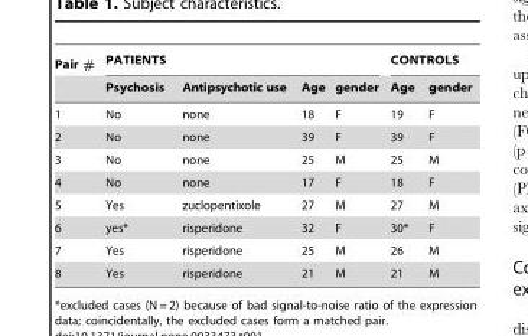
<table><thead><tr><td rowspan="2">Pair #</td><td colspan="4">PATIENTS</td><td colspan="2">CONTROLS</td></tr><tr><td>Psychosis</td><td>Antipsychotic use</td><td>Age</td><td>gender</td><td>Age</td><td>gender</td></tr></thead><tbody><tr><td>1</td><td>No</td><td>none</td><td>18</td><td>F</td><td>19</td><td>F</td></tr><tr><td>2</td><td>No</td><td>none</td><td>39</td><td>F</td><td>39</td><td>F</td></tr><tr><td>3</td><td>No</td><td>none</td><td>25</td><td>M</td><td>25</td><td>M</td></tr><tr><td>4</td><td>No</td><td>none</td><td>17</td><td>F</td><td>18</td><td>F</td></tr><tr><td>5</td><td>Yes</td><td>zuclopentixole</td><td>27</td><td>M</td><td>27</td><td>M</td></tr><tr><td>6</td><td>yes*</td><td>risperidone</td><td>32</td><td>F</td><td>30*</td><td>F</td></tr><tr><td>7</td><td>Yes</td><td>risperidone</td><td>25</td><td>M</td><td>26</td><td>M</td></tr><tr><td>8</td><td>Yes</td><td>risperidone</td><td>21</td><td>M</td><td>21</td><td>M</td></tr></tbody></table>